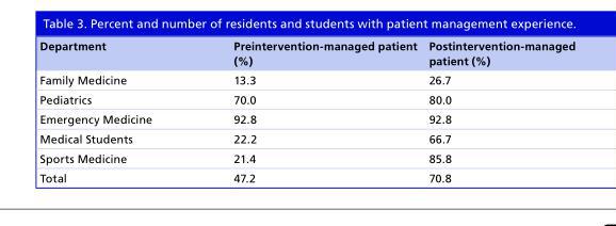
<table><thead><tr><td>Department</td><td>Preintervention-managed patient (%)</td><td>Postintervention-managed patient (%)</td></tr></thead><tbody><tr><td>Family Medicine</td><td>13.3</td><td>26.7</td></tr><tr><td>Pediatrics</td><td>70.0</td><td>80.0</td></tr><tr><td>Emergency Medicine</td><td>92.8</td><td>92.8</td></tr><tr><td>Medical Students</td><td>22.2</td><td>66.7</td></tr><tr><td>Sports Medicine</td><td>21.4</td><td>85.8</td></tr><tr><td>Total</td><td>47.2</td><td>70.8</td></tr></tbody></table>